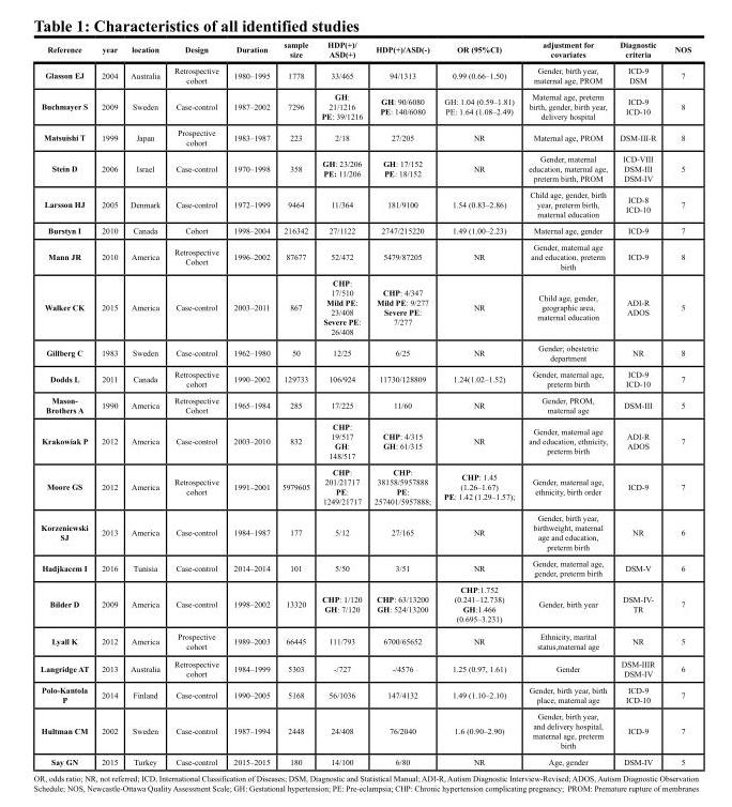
<table><thead><tr><td>Reference</td><td>year</td><td>location</td><td>Design</td><td>Duration</td><td>sample size</td><td>HDP(+)/ ASD(+)</td><td>HDP(+)/ASD(-)</td><td>OR (95%CI)</td><td>adjustment for covariates</td><td>Diagnostic criteria</td><td>NOS</td></tr></thead><tbody><tr><td>Glasson EJ</td><td>2004</td><td>Australia</td><td>Retrospective cohort</td><td>1980–1995</td><td>1778</td><td>33/465</td><td>94/1313</td><td>0.99 (0.66–1.50)</td><td>Gender, birth year, maternal age, PROM</td><td>ICD-9 DSM</td><td>7</td></tr><tr><td>Buchmayer S</td><td>2009</td><td>Sweden</td><td>Case-control</td><td>1987–2002</td><td>7296</td><td>GH: 21/1216 PE: 39/1216</td><td>GH: 90/6080 PE: 140/6080</td><td>GH: 1.04 (0.59–1.81) PE: 1.64 (1.08–2.49)</td><td>Maternal age, preterm birth, gender, birth year, delivery hospital</td><td>ICD-9 ICD-10</td><td>8</td></tr><tr><td>Matsuishi T</td><td>1999</td><td>Japan</td><td>Prospective cohort</td><td>1983–1987</td><td>223</td><td>2/18</td><td>27/205</td><td>NR</td><td>Maternal age, PROM</td><td>DSM-III-R</td><td>8</td></tr><tr><td>Stein D</td><td>2006</td><td>Israel</td><td>Case-control</td><td>1970–1998</td><td>358</td><td>GH: 23/206 PE: 11/206</td><td>GH: 17/152 PE: 18/152</td><td>NR</td><td>Gender, maternal education, maternal age, preterm birth, PROM</td><td>ICD-VIII DSM-III DSM-IV</td><td>5</td></tr><tr><td>Larsson HJ</td><td>2005</td><td>Denmark</td><td>Case-control</td><td>1972–1999</td><td>9464</td><td>11/364</td><td>181/9100</td><td>1.54 (0.83–2.86)</td><td>Child age, gender, birth year, preterm birth, maternal education</td><td>ICD-8 ICD-10</td><td>7</td></tr><tr><td>Burstyn I</td><td>2010</td><td>Canada</td><td>Cohort</td><td>1998–2004</td><td>216342</td><td>27/1122</td><td>2747/215220</td><td>1.49 (1.00–2.23)</td><td>Maternal age, gender</td><td>ICD-9</td><td>7</td></tr><tr><td>Mann JR</td><td>2010</td><td>America</td><td>Retrospective Cohort</td><td>1996–2002</td><td>87677</td><td>52/472</td><td>5479/87205</td><td>NR</td><td>Gender, maternal age and education, preterm birth</td><td>ICD-9</td><td>8</td></tr><tr><td>Walker CK</td><td>2015</td><td>America</td><td>Case-control</td><td>2003–2011</td><td>867</td><td>CHP: 17/510 Mild PE: 23/408 Severe PE: 26/408</td><td>CHP: 4/347 Mild PE: 9/277 Severe PE: 7/277</td><td>NR</td><td>Child age, gender, geographic area, maternal education</td><td>ADI-R ADOS</td><td>5</td></tr><tr><td>Gillberg C</td><td>1983</td><td>Sweden</td><td>Case-control</td><td>1962–1980</td><td>50</td><td>12/25</td><td>6/25</td><td>NR</td><td>Gender; obestetric department</td><td>NR</td><td>8</td></tr><tr><td>Dodds L</td><td>2011</td><td>Canada</td><td>Retrospective cohort</td><td>1990–2002</td><td>129733</td><td>106/924</td><td>11730/128809</td><td>1.24(1.02–1.52)</td><td>Gender, maternal age, preterm birth</td><td>ICD-9 ICD-10</td><td>7</td></tr><tr><td>Mason- Brothers A</td><td>1990</td><td>America</td><td>Retrospective Cohort</td><td>1965–1984</td><td>285</td><td>17/225</td><td>11/60</td><td>NR</td><td>Gender, PROM, maternal age</td><td>DSM-III</td><td>5</td></tr><tr><td>Krakowiak P</td><td>2012</td><td>America</td><td>Case-control</td><td>2003–2010</td><td>832</td><td>CHP: 19/517 GH: 148/517</td><td>CHP: 4/315 GH: 61/315</td><td>NR</td><td>Gender, maternal age and education, ethnicity, preterm birth</td><td>ADI-R ADOS</td><td>7</td></tr><tr><td>Moore GS</td><td>2012</td><td>America</td><td>Retrospective cohort</td><td>1991–2001</td><td>5979605</td><td>CHP: 201/21717 PE: 1249/21717</td><td>CHP: 38158/5957888 PE: 257401/5957888;</td><td>CHP: 1.45 (1.26–1.67) PE: 1.42 (1.29–1.57);</td><td>Gender, maternal age, ethnicity, birth order</td><td>ICD-9</td><td>7</td></tr><tr><td>Korzeniewski SJ</td><td>2013</td><td>America</td><td>Case-control</td><td>1984–1987</td><td>177</td><td>5/12</td><td>27/165</td><td>NR</td><td>Gender, birth year, birthweight, maternal age and education, preterm birth</td><td>NR</td><td>6</td></tr><tr><td>Hadjkacem I</td><td>2016</td><td>Tunisia</td><td>Case-control</td><td>2014–2014</td><td>101</td><td>5/50</td><td>3/51</td><td>NR</td><td>Gender, maternal age, gender, preterm birth</td><td>DSM-V</td><td>6</td></tr><tr><td>Bilder D</td><td>2009</td><td>America</td><td>Case-control</td><td>1998–2002</td><td>13320</td><td>CHP: 1/120 GH: 7/120</td><td>CHP: 63/13200 GH: 524/13200</td><td>CHP:1.752 (0.241–12.738) GH:1.466 (0.695–3.231)</td><td>Gender, birth year</td><td>DSM-IV- TR</td><td>7</td></tr><tr><td>Lyall K</td><td>2012</td><td>America</td><td>Prospective cohort</td><td>1989–2003</td><td>66445</td><td>111/793</td><td>6700/65652</td><td>NR</td><td>Ethnicity, marital status,maternal age</td><td>NR</td><td>5</td></tr><tr><td>Langridge AT</td><td>2013</td><td>Australia</td><td>Retrospective cohort</td><td>1984–1999</td><td>5303</td><td>-/727</td><td>-/4576</td><td>1.25 (0.97, 1.61)</td><td>Gender</td><td>DSM-IIIR DSM-IV</td><td>6</td></tr><tr><td>Polo-Kantola P</td><td>2014</td><td>Finland</td><td>Case-control</td><td>1990–2005</td><td>5168</td><td>56/1036</td><td>147/4132</td><td>1.49 (1.10–2.10)</td><td>Gender, birth year, birth place, maternal age</td><td>ICD-9 ICD-10</td><td>7</td></tr><tr><td>Hultman CM</td><td>2002</td><td>Sweden</td><td>Case-control</td><td>1987–1994</td><td>2448</td><td>24/408</td><td>76/2040</td><td>1.6 (0.90–2.90)</td><td>Gender, birth year, and delivery hospital, maternal age, preterm birth</td><td>ICD-9</td><td>7</td></tr><tr><td>Say GN</td><td>2015</td><td>Turkey</td><td>Case-control</td><td>2015–2015</td><td>180</td><td>14/100</td><td>6/80</td><td>NR</td><td>Age, gender</td><td>DSM-IV</td><td>5</td></tr></tbody></table>